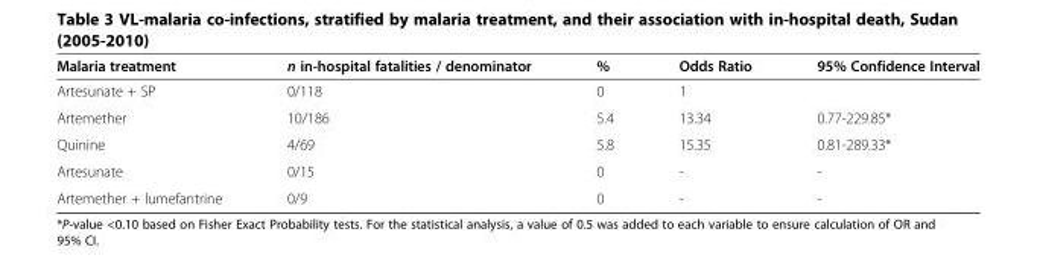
<table><thead><tr><td>Malaria treatment</td><td>n in-hospital fatalities / denominator</td><td>%</td><td>Odds Ratio</td><td>95% Confidence Interval</td></tr></thead><tbody><tr><td>Artesunate + SP</td><td>0/118</td><td>0</td><td>1</td><td></td></tr><tr><td>Artemether</td><td>10/186</td><td>5.4</td><td>13.34</td><td>0.77-229.85*</td></tr><tr><td>Quinine</td><td>4/69</td><td>5.8</td><td>15.35</td><td>0.81-289.33*</td></tr><tr><td>Artesunate</td><td>0/15</td><td>0</td><td>-</td><td>-</td></tr><tr><td>Artemether + lumefantrine</td><td>0/9</td><td>0</td><td>-</td><td>-</td></tr></tbody></table>